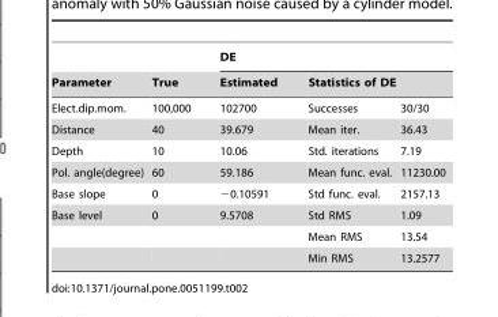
<table><thead><tr><td rowspan="3">Parameter Elect.dip.mom.</td><td rowspan="3">True 100,000</td><td colspan="3">DE</td></tr><tr><td rowspan="2">Estimated 102700</td><td colspan="2">Statistics of DE</td></tr><tr><td>Successes</td><td>30/30</td></tr></thead><tbody><tr><td>Distance</td><td>40</td><td>39.679</td><td>Mean iter.</td><td>36.43</td></tr><tr><td>Depth</td><td>10</td><td>10.06</td><td>Std. iterations</td><td>7.19</td></tr><tr><td>Pol. angle(degree)</td><td>60</td><td>59.186</td><td>Mean func. eval.</td><td>11230.00</td></tr><tr><td>Base slope</td><td>0</td><td>−0.10591</td><td>Std func. eval.</td><td>2157.13</td></tr><tr><td rowspan="3">Base level</td><td>0</td><td>9.5708</td><td>Std RMS</td><td>1.09</td></tr><tr><td></td><td></td><td>Mean RMS</td><td>13.54</td></tr><tr><td></td><td></td><td>Min RMS</td><td>13.2577</td></tr></tbody></table>